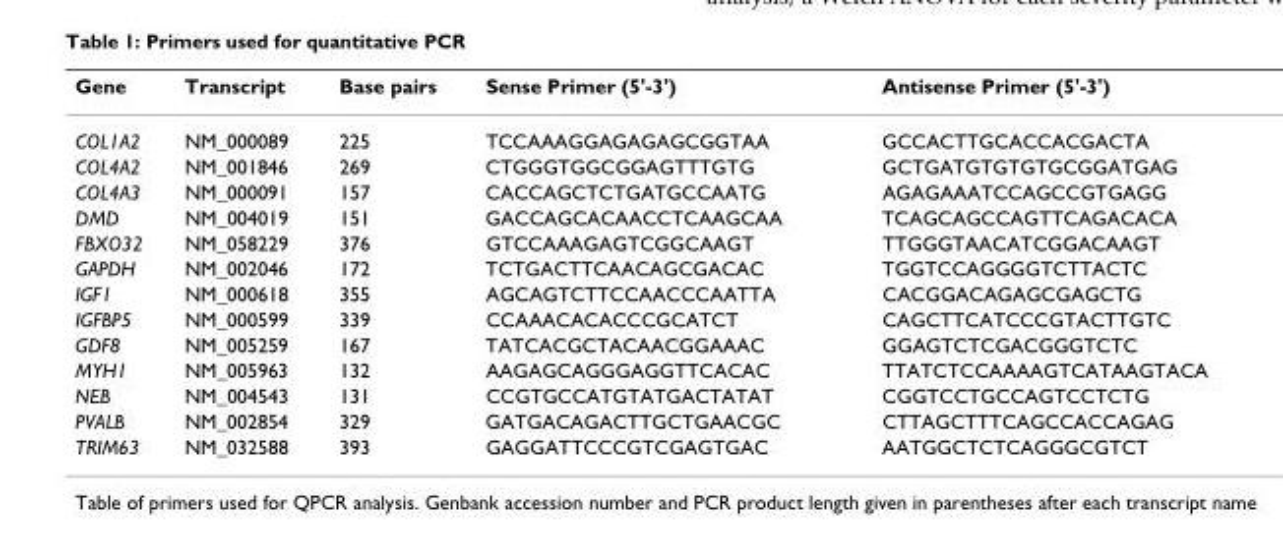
<table><thead><tr><td>Gene</td><td>Transcript</td><td>Base pairs</td><td>Sense Primer (5&#x27;-3&#x27;)</td><td>Antisense Primer (5&#x27;-3&#x27;)</td></tr></thead><tbody><tr><td>COL1A2</td><td>NM_000089</td><td>225</td><td>TCCAAAGGAGAGAGCGGTAA</td><td>GCCACTTGCACCACGACTA</td></tr><tr><td>COL4A2</td><td>NM_001846</td><td>269</td><td>CTGGGTGGCGGAGTTTGTG</td><td>GCTGATGTGTGTGCGGATGAG</td></tr><tr><td>COL4A3</td><td>NM_000091</td><td>157</td><td>CACCAGCTCTGATGCCAATG</td><td>AGAGAAATCCAGCCGTGAGG</td></tr><tr><td>DMD</td><td>NM_004019</td><td>151</td><td>GACCAGCACAACCTCAAGCAA</td><td>TCAGCAGCCAGTTCAGACACA</td></tr><tr><td>FBXO32</td><td>NM_058229</td><td>376</td><td>GTCCAAAGAGTCGGCAAGT</td><td>TTGGGTAACATCGGACAAGT</td></tr><tr><td>GAPDH</td><td>NM_002046</td><td>172</td><td>TCTGACTTCAACAGCGACAC</td><td>TGGTCCAGGGGTCTTACTC</td></tr><tr><td>IGF1</td><td>NM_000618</td><td>355</td><td>AGCAGTCTTCCAACCCAATTA</td><td>CACGGACAGAGCGAGCTG</td></tr><tr><td>IGFBP5</td><td>NM_000599</td><td>339</td><td>CCAAACACACCCGCATCT</td><td>CAGCTTCATCCCGTACTTGTC</td></tr><tr><td>GDF8</td><td>NM_005259</td><td>167</td><td>TATCACGCTACAACGGAAAC</td><td>GGAGTCTCGACGGGTCTC</td></tr><tr><td>MYH1</td><td>NM_005963</td><td>132</td><td>AAGAGCAGGGAGGTTCACAC</td><td>TTATCTCCAAAAGTCATAAGTACA</td></tr><tr><td>NEB</td><td>NM_004543</td><td>131</td><td>CCGTGCCATGTATGACTATAT</td><td>CGGTCCTGCCAGTCCTCTG</td></tr><tr><td>PVALB</td><td>NM_002854</td><td>329</td><td>GATGACAGACTTGCTGAACGC</td><td>CTTAGCTTTCAGCCACCAGAG</td></tr><tr><td>TRIM63</td><td>NM_032588</td><td>393</td><td>GAGGATTCCCGTCGAGTGAC</td><td>AATGGCTCTCAGGGCGTCT</td></tr></tbody></table>